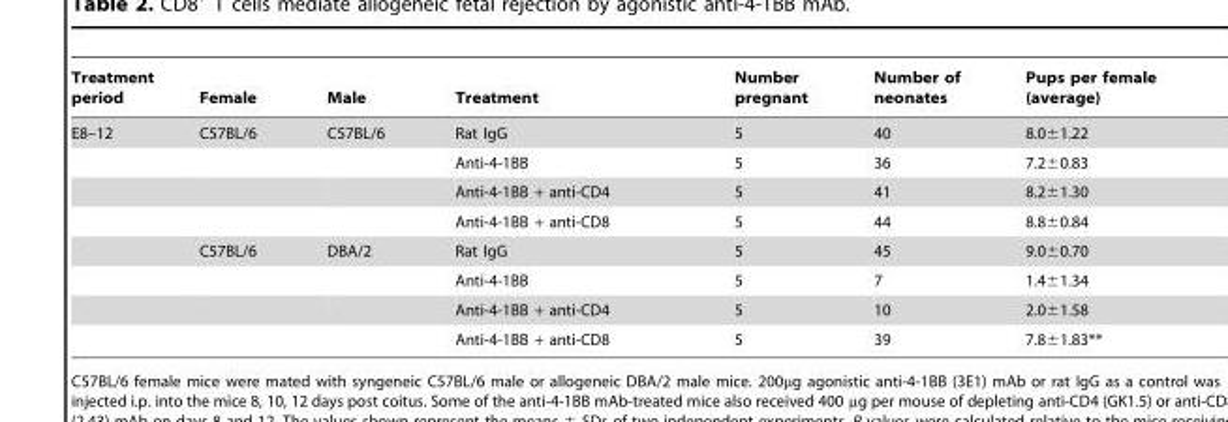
<table><thead><tr><td>Treatment period</td><td>Female</td><td>Male</td><td>Treatment</td><td>Number pregnant</td><td>Number of neonates</td><td>Pups per female (average)</td></tr></thead><tbody><tr><td rowspan="8">E8–12</td><td>C57BL/6</td><td>C57BL/6</td><td>Rat IgG</td><td>5</td><td>40</td><td>8.0±1.22</td></tr><tr><td></td><td></td><td>Anti-4-1BB</td><td>5</td><td>36</td><td>7.2±0.83</td></tr><tr><td></td><td></td><td>Anti-4-1BB + anti-CD4</td><td>5</td><td>41</td><td>8.2±1.30</td></tr><tr><td></td><td></td><td>Anti-4-1BB + anti-CD8</td><td>5</td><td>44</td><td>8.8±0.84</td></tr><tr><td>C57BL/6</td><td>DBA/2</td><td>Rat IgG</td><td>5</td><td>45</td><td>9.0±0.70</td></tr><tr><td></td><td></td><td>Anti-4-1BB</td><td>5</td><td>7</td><td>1.4±1.34</td></tr><tr><td></td><td></td><td>Anti-4-1BB + anti-CD4</td><td>5</td><td>10</td><td>2.0±1.58</td></tr><tr><td></td><td></td><td>Anti-4-1BB + anti-CD8</td><td>5</td><td>39</td><td>7.8±1.83**</td></tr></tbody></table>